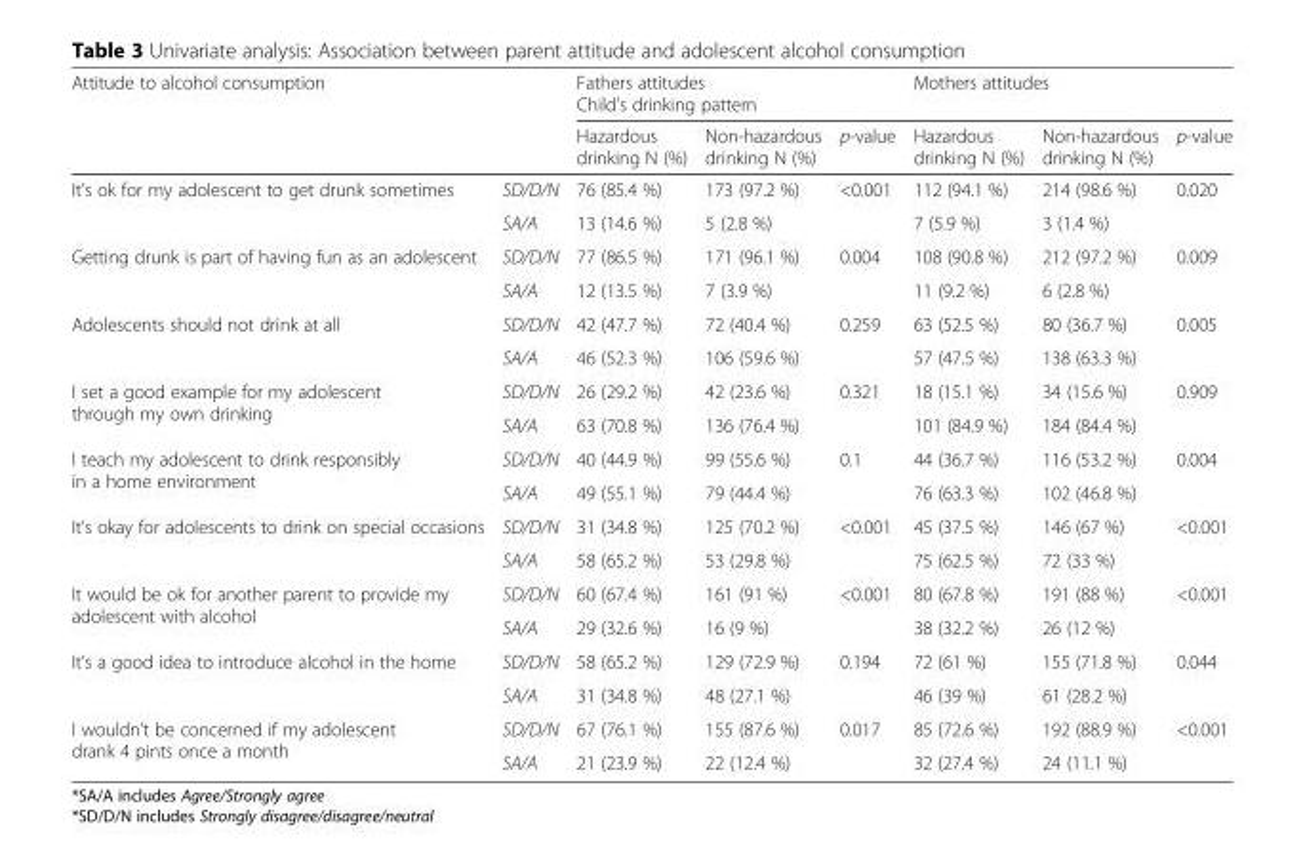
<table><thead><tr><td rowspan="2" colspan="2">Attitude to alcohol consumption</td><td colspan="3">Fathers attitudes</td><td colspan="3">Mothers attitudes</td></tr><tr><td colspan="6">Child’s drinking pattern</td></tr><tr><td></td><td></td><td>Hazardous drinking N (%)</td><td>Non-hazardous drinking N (%)</td><td>p-value</td><td>Hazardous drinking N (%)</td><td>Non-hazardous drinking N (%)</td><td>p-value</td></tr></thead><tbody><tr><td rowspan="2">It’s ok for my adolescent to get drunk sometimes</td><td>SD/D/N</td><td>76 (85.4 %)</td><td>173 (97.2 %)</td><td rowspan="2">&lt;0.001</td><td>112 (94.1 %)</td><td>214 (98.6 %)</td><td rowspan="2">0.020</td></tr><tr><td>SA/A</td><td>13 (14.6 %)</td><td>5 (2.8 %)</td><td>7 (5.9 %)</td><td>3 (1.4 %)</td></tr><tr><td rowspan="2">Getting drunk is part of having fun as an adolescent</td><td>SD/D/N</td><td>77 (86.5 %)</td><td>171 (96.1 %)</td><td rowspan="2">0.004</td><td>108 (90.8 %)</td><td>212 (97.2 %)</td><td rowspan="2">0.009</td></tr><tr><td>SA/A</td><td>12 (13.5 %)</td><td>7 (3.9 %)</td><td>11 (9.2 %)</td><td>6 (2.8 %)</td></tr><tr><td rowspan="2">Adolescents should not drink at all</td><td>SD/D/N</td><td>42 (47.7 %)</td><td>72 (40.4 %)</td><td rowspan="2">0.259</td><td>63 (52.5 %)</td><td>80 (36.7 %)</td><td rowspan="2">0.005</td></tr><tr><td>SA/A</td><td>46 (52.3 %)</td><td>106 (59.6 %)</td><td>57 (47.5 %)</td><td>138 (63.3 %)</td></tr><tr><td rowspan="2">I set a good example for my adolescent through my own drinking</td><td>SD/D/N</td><td>26 (29.2 %)</td><td>42 (23.6 %)</td><td rowspan="2">0.321</td><td>18 (15.1 %)</td><td>34 (15.6 %)</td><td rowspan="2">0.909</td></tr><tr><td>SA/A</td><td>63 (70.8 %)</td><td>136 (76.4 %)</td><td>101 (84.9 %)</td><td>184 (84.4 %)</td></tr><tr><td rowspan="2">I teach my adolescent to drink responsibly in a home environment</td><td>SD/D/N</td><td>40 (44.9 %)</td><td>99 (55.6 %)</td><td rowspan="2">0.1</td><td>44 (36.7 %)</td><td>116 (53.2 %)</td><td rowspan="2">0.004</td></tr><tr><td>SA/A</td><td>49 (55.1 %)</td><td>79 (44.4 %)</td><td>76 (63.3 %)</td><td>102 (46.8 %)</td></tr><tr><td rowspan="2">It’s okay for adolescents to drink on special occasions</td><td>SD/D/N</td><td>31 (34.8 %)</td><td>125 (70.2 %)</td><td rowspan="2">&lt;0.001</td><td>45 (37.5 %)</td><td>146 (67 %)</td><td rowspan="2">&lt;0.001</td></tr><tr><td>SA/A</td><td>58 (65.2 %)</td><td>53 (29.8 %)</td><td>75 (62.5 %)</td><td>72 (33 %)</td></tr><tr><td rowspan="2">It would be ok for another parent to provide my adolescent with alcohol</td><td>SD/D/N</td><td>60 (67.4 %)</td><td>161 (91 %)</td><td rowspan="2">&lt;0.001</td><td>80 (67.8 %)</td><td>191 (88 %)</td><td rowspan="2">&lt;0.001</td></tr><tr><td>SA/A</td><td>29 (32.6 %)</td><td>16 (9 %)</td><td>38 (32.2 %)</td><td>26 (12 %)</td></tr><tr><td rowspan="2">It’s a good idea to introduce alcohol in the home</td><td>SD/D/N</td><td>58 (65.2 %)</td><td>129 (72.9 %)</td><td rowspan="2">0.194</td><td>72 (61 %)</td><td>155 (71.8 %)</td><td rowspan="2">0.044</td></tr><tr><td>SA/A</td><td>31 (34.8 %)</td><td>48 (27.1 %)</td><td>46 (39 %)</td><td>61 (28.2 %)</td></tr><tr><td rowspan="2">I wouldn’t be concerned if my adolescent drank 4 pints once a month</td><td>SD/D/N</td><td>67 (76.1 %)</td><td>155 (87.6 %)</td><td rowspan="2">0.017</td><td>85 (72.6 %)</td><td>192 (88.9 %)</td><td rowspan="2">&lt;0.001</td></tr><tr><td>SA/A</td><td>21 (23.9 %)</td><td>22 (12.4 %)</td><td>32 (27.4 %)</td><td>24 (11.1 %)</td></tr></tbody></table>